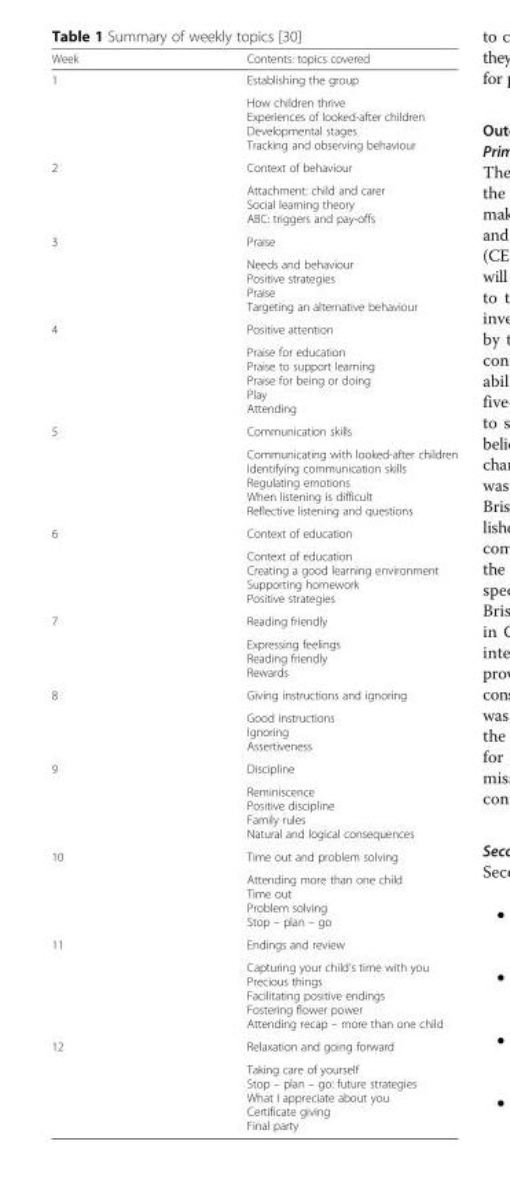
<table><thead><tr><td>Week</td><td>Contents: topics covered</td></tr></thead><tbody><tr><td rowspan="2">1</td><td>Establishing the group</td></tr><tr><td>How children thrive Experiences of looked-after children Developmental stages Tracking and observing behaviour</td></tr><tr><td rowspan="2">2</td><td>Context of behaviour</td></tr><tr><td>Attachment: child and carer Social learning theory ABC: triggers and pay-offs</td></tr><tr><td rowspan="2">3</td><td>Praise</td></tr><tr><td>Needs and behaviour Positive strategies Praise Targeting an alternative behaviour</td></tr><tr><td rowspan="2">4</td><td>Positive attention</td></tr><tr><td>Praise for education Praise to support learning Praise for being or doing Play Attending</td></tr><tr><td rowspan="2">5</td><td>Communication skills</td></tr><tr><td>Communicating with looked-after children Identifying communication skills Regulating emotions When listening is difficult Reflective listening and questions</td></tr><tr><td rowspan="2">6</td><td>Context of education</td></tr><tr><td>Context of education Creating a good learning environment Supporting homework Positive strategies</td></tr><tr><td rowspan="2">7</td><td>Reading friendly</td></tr><tr><td>Expressing feelings Reading friendly Rewards</td></tr><tr><td rowspan="2">8</td><td>Giving instructions and ignoring</td></tr><tr><td>Good instructions Ignoring Assertiveness</td></tr><tr><td rowspan="2">9</td><td>Discipline</td></tr><tr><td>Reminiscence Positive discipline Family rules Natural and logical consequences</td></tr><tr><td rowspan="2">10</td><td>Time out and problem solving</td></tr><tr><td>Attending more than one child Time out Problem solving Stop – plan – go</td></tr><tr><td rowspan="2">11</td><td>Endings and review</td></tr><tr><td>Capturing your child’s time with you Precious things Facilitating positive endings Fostering flower power Attending recap – more than one child</td></tr><tr><td rowspan="2">12</td><td>Relaxation and going forward</td></tr><tr><td>Taking care of yourself Stop – plan – go: future strategies What I appreciate about you Certificate giving Final party</td></tr></tbody></table>